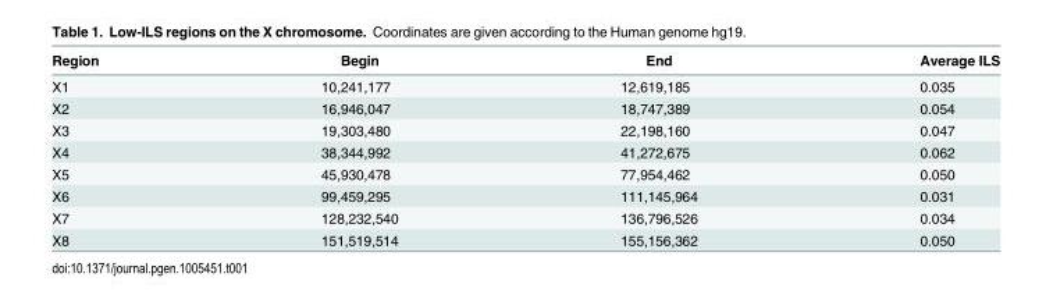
<table><thead><tr><td>Region</td><td>Begin</td><td>End</td><td>Average ILS</td></tr></thead><tbody><tr><td>X1</td><td>10,241,177</td><td>12,619,185</td><td>0.035</td></tr><tr><td>X2</td><td>16,946,047</td><td>18,747,389</td><td>0.054</td></tr><tr><td>X3</td><td>19,303,480</td><td>22,198,160</td><td>0.047</td></tr><tr><td>X4</td><td>38,344,992</td><td>41,272,675</td><td>0.062</td></tr><tr><td>X5</td><td>45,930,478</td><td>77,954,462</td><td>0.050</td></tr><tr><td>X6</td><td>99,459,295</td><td>111,145,964</td><td>0.031</td></tr><tr><td>X7</td><td>128,232,540</td><td>136,796,526</td><td>0.034</td></tr><tr><td>X8</td><td>151,519,514</td><td>155,156,362</td><td>0.050</td></tr></tbody></table>